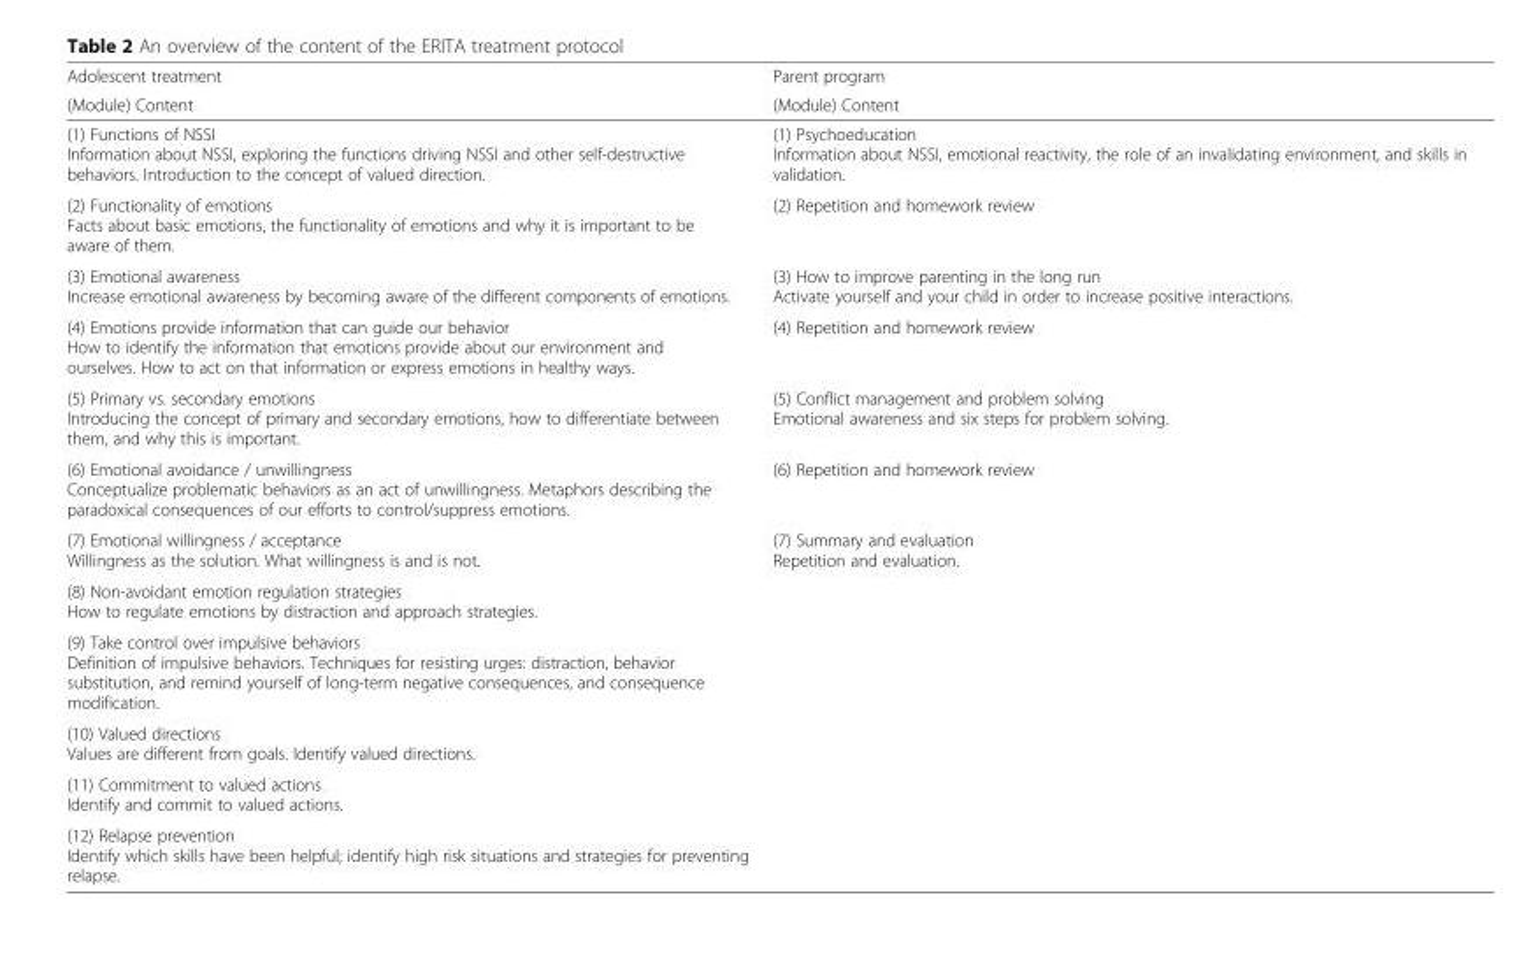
<table><thead><tr><td rowspan="2">Adolescent treatment (Module) Content</td><td rowspan="2">Parent program (Module) Content</td></tr><tr></tr></thead><tbody><tr><td>(1) Functions of NSSI Information about NSSI, exploring the functions driving NSSI and other self-destructive behaviors. Introduction to the concept of valued direction.</td><td>(1) Psychoeducation Information about NSSI, emotional reactivity, the role of an invalidating environment, and skills in validation.</td></tr><tr><td>(2) Functionality of emotions Facts about basic emotions, the functionality of emotions and why it is important to be aware of them.</td><td>(2) Repetition and homework review</td></tr><tr><td>(3) Emotional awareness Increase emotional awareness by becoming aware of the different components of emotions.</td><td>(3) How to improve parenting in the long run Activate yourself and your child in order to increase positive interactions.</td></tr><tr><td>(4) Emotions provide information that can guide our behavior How to identify the information that emotions provide about our environment and ourselves. How to act on that information or express emotions in healthy ways.</td><td>(4) Repetition and homework review</td></tr><tr><td>(5) Primary vs. secondary emotions Introducing the concept of primary and secondary emotions, how to differentiate between them, and why this is important.</td><td>(5) Conflict management and problem solving Emotional awareness and six steps for problem solving.</td></tr><tr><td>(6) Emotional avoidance / unwillingness Conceptualize problematic behaviors as an act of unwillingness. Metaphors describing the paradoxical consequences of our efforts to control/suppress emotions.</td><td>(6) Repetition and homework review</td></tr><tr><td>(7) Emotional willingness / acceptance Willingness as the solution. What willingness is and is not.</td><td rowspan="6">(7) Summary and evaluation Repetition and evaluation.</td></tr><tr><td>(8) Non-avoidant emotion regulation strategies How to regulate emotions by distraction and approach strategies.</td></tr><tr><td>(9) Take control over impulsive behaviors Definition of impulsive behaviors. Techniques for resisting urges: distraction, behavior substitution, and remind yourself of long-term negative consequences, and consequence modification.</td></tr><tr><td>(10) Valued directions Values are different from goals. Identify valued directions.</td></tr><tr><td>(11) Commitment to valued actions Identify and commit to valued actions.</td></tr><tr><td>(12) Relapse prevention Identify which skills have been helpful; identify high risk situations and strategies for preventing relapse.</td></tr></tbody></table>